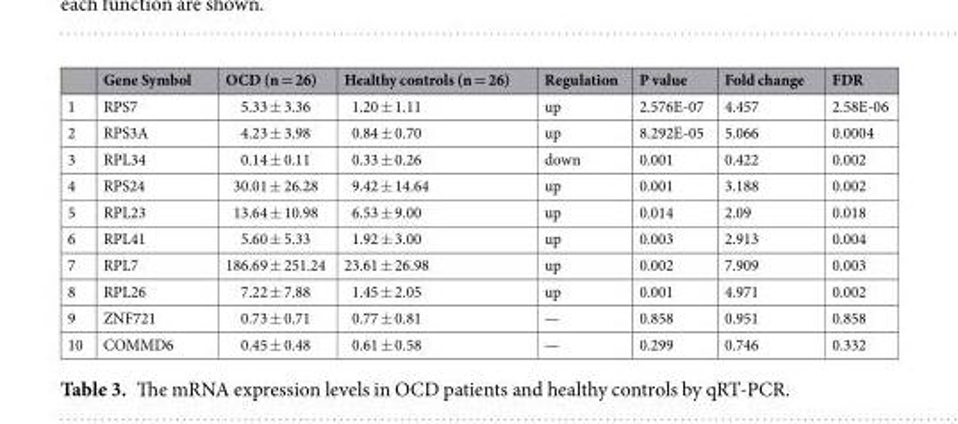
<table><thead><tr><td></td><td>Gene Symbol</td><td>OCD (n = 26)</td><td>Healthy controls (n = 26)</td><td>Regulation</td><td>P value</td><td>Fold change</td><td>FDR</td></tr></thead><tbody><tr><td>1</td><td>RPS7</td><td>5.33 ± 3.36</td><td>1.20 ± 1.11</td><td>up</td><td>2.576E-07</td><td>4.457</td><td>2.58E-06</td></tr><tr><td>2</td><td>RPS3A</td><td>4.23 ± 3.98</td><td>0.84 ± 0.70</td><td>up</td><td>8.292E-05</td><td>5.066</td><td>0.0004</td></tr><tr><td>3</td><td>RPL34</td><td>0.14 ± 0.11</td><td>0.33 ± 0.26</td><td>down</td><td>0.001</td><td>0.422</td><td>0.002</td></tr><tr><td>4</td><td>RPS24</td><td>30.01 ± 26.28</td><td>9.42 ± 14.64</td><td>up</td><td>0.001</td><td>3.188</td><td>0.002</td></tr><tr><td>5</td><td>RPL23</td><td>13.64 ± 10.98</td><td>6.53 ± 9.00</td><td>up</td><td>0.014</td><td>2.09</td><td>0.018</td></tr><tr><td>6</td><td>RPL41</td><td>5.60 ± 5.33</td><td>1.92 ± 3.00</td><td>up</td><td>0.003</td><td>2.913</td><td>0.004</td></tr><tr><td>7</td><td>RPL7</td><td>186.69 ± 251.24</td><td>23.61 ± 26.98</td><td>up</td><td>0.002</td><td>7.909</td><td>0.003</td></tr><tr><td>8</td><td>RPL26</td><td>7.22 ± 7.88</td><td>1.45 ± 2.05</td><td>up</td><td>0.001</td><td>4.971</td><td>0.002</td></tr><tr><td>9</td><td>ZNF721</td><td>0.73 ± 0.71</td><td>0.77 ± 0.81</td><td>—</td><td>0.858</td><td>0.951</td><td>0.858</td></tr><tr><td>10</td><td>COMMD6</td><td>0.45 ± 0.48</td><td>0.61 ± 0.58</td><td>—</td><td>0.299</td><td>0.746</td><td>0.332</td></tr></tbody></table>